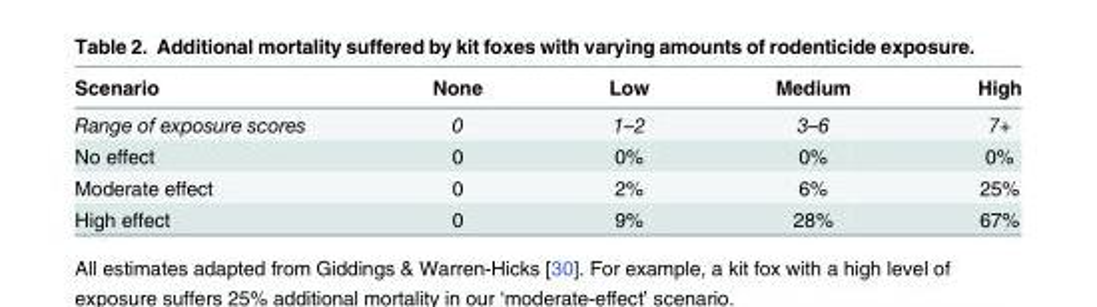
<table><thead><tr><td>Scenario</td><td>None</td><td>Low</td><td>Medium</td><td>High</td></tr></thead><tbody><tr><td>Range of exposure scores</td><td>0</td><td>1–2</td><td>3–6</td><td>7+</td></tr><tr><td>No effect</td><td>0</td><td>0%</td><td>0%</td><td>0%</td></tr><tr><td>Moderate effect</td><td>0</td><td>2%</td><td>6%</td><td>25%</td></tr><tr><td>High effect</td><td>0</td><td>9%</td><td>28%</td><td>67%</td></tr></tbody></table>